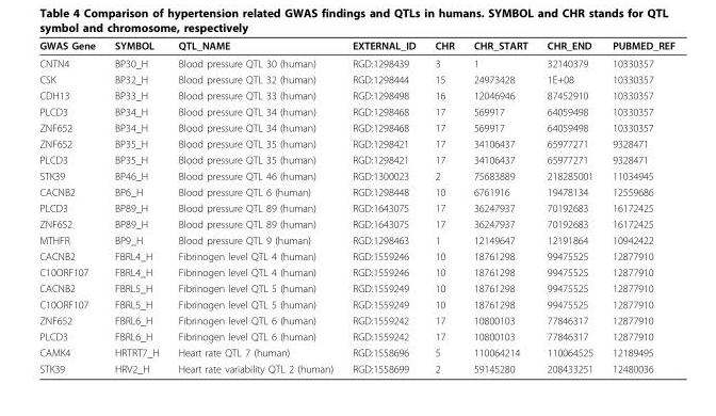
<table><thead><tr><td>GWAS Gene</td><td>SYMBOL</td><td>QTL_NAME</td><td>EXTERNAL_ID</td><td>CHR</td><td>CHR_START</td><td>CHR_END</td><td>PUBMED_REF</td></tr></thead><tbody><tr><td>CNTN4</td><td>BP30_H</td><td>Blood pressure QTL 30 (human)</td><td>RGD:1298439</td><td>3</td><td>1</td><td>32140379</td><td>10330357</td></tr><tr><td>CSK</td><td>BP32_H</td><td>Blood pressure QTL 32 (human)</td><td>RGD:1298444</td><td>15</td><td>24973428</td><td>1E+08</td><td>10330357</td></tr><tr><td>CDH13</td><td>BP33_H</td><td>Blood pressure QTL 33 (human)</td><td>RGD:1298498</td><td>16</td><td>12046946</td><td>87452910</td><td>10330357</td></tr><tr><td>PLCD3</td><td>BP34_H</td><td>Blood pressure QTL 34 (human)</td><td>RGD:1298468</td><td>17</td><td>569917</td><td>64059498</td><td>10330357</td></tr><tr><td>ZNF652</td><td>BP34_H</td><td>Blood pressure QTL 34 (human)</td><td>RGD:1298468</td><td>17</td><td>569917</td><td>64059498</td><td>10330357</td></tr><tr><td>ZNF652</td><td>BP35_H</td><td>Blood pressure QTL 35 (human)</td><td>RGD:1298421</td><td>17</td><td>34106437</td><td>65977271</td><td>9328471</td></tr><tr><td>PLCD3</td><td>BP35_H</td><td>Blood pressure QTL 35 (human)</td><td>RGD:1298421</td><td>17</td><td>34106437</td><td>65977271</td><td>9328471</td></tr><tr><td>STK39</td><td>BP46_H</td><td>Blood pressure QTL 46 (human)</td><td>RGD:1300023</td><td>2</td><td>75683889</td><td>218285001</td><td>11034945</td></tr><tr><td>CACNB2</td><td>BP6_H</td><td>Blood pressure QTL 6 (human)</td><td>RGD:1298448</td><td>10</td><td>6761916</td><td>19478134</td><td>12559686</td></tr><tr><td>PLCD3</td><td>BP89_H</td><td>Blood pressure QTL 89 (human)</td><td>RGD:1643075</td><td>17</td><td>36247937</td><td>70192683</td><td>16172425</td></tr><tr><td>ZNF652</td><td>BP89_H</td><td>Blood pressure QTL 89 (human)</td><td>RGD:1643075</td><td>17</td><td>36247937</td><td>70192683</td><td>16172425</td></tr><tr><td>MTHFR</td><td>BP9_H</td><td>Blood pressure QTL 9 (human)</td><td>RGD:1298463</td><td>1</td><td>12149647</td><td>12191864</td><td>10942422</td></tr><tr><td>CACNB2</td><td>FBRL4_H</td><td>Fibrinogen level QTL 4 (human)</td><td>RGD:1559246</td><td>10</td><td>18761298</td><td>99475525</td><td>12877910</td></tr><tr><td>C10ORF107</td><td>FBRL4_H</td><td>Fibrinogen level QTL 4 (human)</td><td>RGD:1559246</td><td>10</td><td>18761298</td><td>99475525</td><td>12877910</td></tr><tr><td>CACNB2</td><td>FBRL5_H</td><td>Fibrinogen level QTL 5 (human)</td><td>RGD:1559249</td><td>10</td><td>18761298</td><td>99475525</td><td>12877910</td></tr><tr><td>C10ORF107</td><td>FBRL5_H</td><td>Fibrinogen level QTL 5 (human)</td><td>RGD:1559249</td><td>10</td><td>18761298</td><td>99475525</td><td>12877910</td></tr><tr><td>ZNF652</td><td>FBRL6_H</td><td>Fibrinogen level QTL 6 (human)</td><td>RGD:1559242</td><td>17</td><td>10800103</td><td>77846317</td><td>12877910</td></tr><tr><td>PLCD3</td><td>FBRL6_H</td><td>Fibrinogen level QTL 6 (human)</td><td>RGD:1559242</td><td>17</td><td>10800103</td><td>77846317</td><td>12877910</td></tr><tr><td>CAMK4</td><td>HRTRT7_H</td><td>Heart rate QTL 7 (human)</td><td>RGD:1558696</td><td>5</td><td>110064214</td><td>110064525</td><td>12189495</td></tr><tr><td>STK39</td><td>HRV2_H</td><td>Heart rate variability QTL 2 (human)</td><td>RGD:1558699</td><td>2</td><td>59145280</td><td>208433251</td><td>12480036</td></tr></tbody></table>